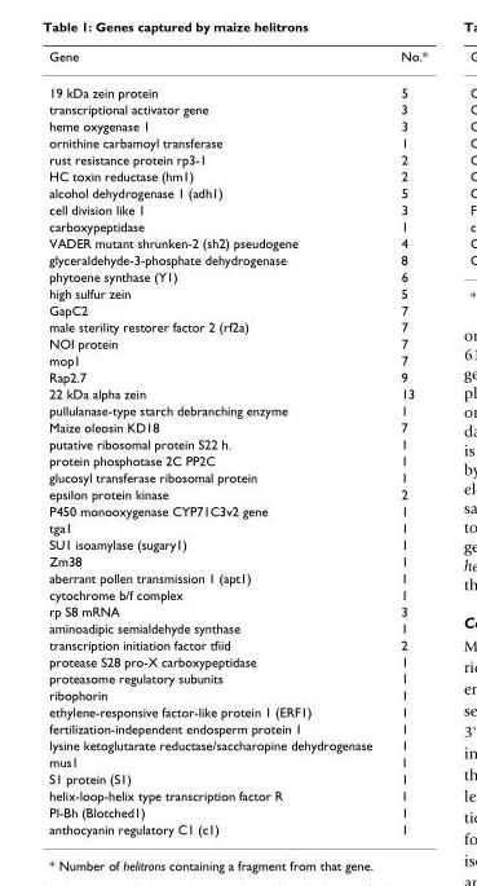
<table><thead><tr><td>Gene</td><td>No.*</td></tr></thead><tbody><tr><td>19 kDa zein protein</td><td>5</td></tr><tr><td>transcriptional activator gene</td><td>3</td></tr><tr><td>heme oxygenase 1</td><td>3</td></tr><tr><td>ornithine carbamoyl transferase</td><td>1</td></tr><tr><td>rust resistance protein rp3-1</td><td>2</td></tr><tr><td>HC toxin reductase (hm1)</td><td>2</td></tr><tr><td>alcohol dehydrogenase 1 (adh1)</td><td>5</td></tr><tr><td>cell division like 1</td><td>3</td></tr><tr><td>carboxypeptidase</td><td>1</td></tr><tr><td>VADER mutant shrunken-2 (sh2) pseudogene</td><td>4</td></tr><tr><td>glyceraldehyde-3-phosphate dehydrogenase</td><td>8</td></tr><tr><td>phytoene synthase (Y1)</td><td>6</td></tr><tr><td>high sulfur zein</td><td>5</td></tr><tr><td>GapC2</td><td>7</td></tr><tr><td>male sterility restorer factor 2 (rf2a)</td><td>7</td></tr><tr><td>NOI protein</td><td>7</td></tr><tr><td>mop1</td><td>7</td></tr><tr><td>Rap2.7</td><td>9</td></tr><tr><td>22 kDa alpha zein</td><td>13</td></tr><tr><td>pullulanase-type starch debranching enzyme</td><td>1</td></tr><tr><td>Maize oleosin KD18</td><td>7</td></tr><tr><td>putative ribosomal protein S22 h.</td><td>1</td></tr><tr><td>protein phosphotase 2C PP2C</td><td>1</td></tr><tr><td>glucosyl transferase ribosomal protein</td><td>1</td></tr><tr><td>epsilon protein kinase</td><td>2</td></tr><tr><td>P450 monooxygenase CYP71C3v2 gene</td><td>1</td></tr><tr><td>tga1</td><td>1</td></tr><tr><td>SU1 isoamylase (sugary1)</td><td>1</td></tr><tr><td>Zm38</td><td>1</td></tr><tr><td>aberrant pollen transmission 1 (apt1)</td><td>1</td></tr><tr><td>cytochrome b/f complex</td><td>1</td></tr><tr><td>rp S8 mRNA</td><td>3</td></tr><tr><td>aminoadipic semialdehyde synthase</td><td>1</td></tr><tr><td>transcription initiation factor tfiid</td><td>2</td></tr><tr><td>protease S28 pro-X carboxypeptidase</td><td>1</td></tr><tr><td>proteasome regulatory subunits</td><td>1</td></tr><tr><td>ribophorin</td><td>1</td></tr><tr><td>ethylene-responsive factor-like protein 1 (ERF1)</td><td>1</td></tr><tr><td>fertilization-independent endosperm protein 1</td><td>1</td></tr><tr><td>lysine ketoglutarate reductase/saccharopine dehydrogenase</td><td>1</td></tr><tr><td>mus1</td><td>1</td></tr><tr><td>S1 protein (S1)</td><td>1</td></tr><tr><td>helix-loop-helix type transcription factor R</td><td>1</td></tr><tr><td>Pl-Bh (Blotched1)</td><td>1</td></tr><tr><td>anthocyanin regulatory C1 (c1)</td><td>1</td></tr></tbody></table>